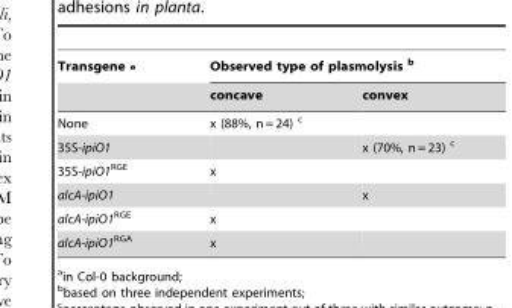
<table><thead><tr><td rowspan="2">Transgene a</td><td colspan="2">Observed type of plasmolysis b</td></tr><tr><td>concave</td><td>convex</td></tr></thead><tbody><tr><td>None</td><td>x (88%, n = 24) c</td><td></td></tr><tr><td>35S-ipiO1</td><td></td><td>x (70%, n = 23) c</td></tr><tr><td>35S-ipiO1<sup>RGE</sup></td><td>x</td><td></td></tr><tr><td>alcA-ipiO1</td><td></td><td>x</td></tr><tr><td>alcA-ipiO1<sup>RGE</sup></td><td>x</td><td></td></tr><tr><td>alcA-ipiO1<sup>RGA</sup></td><td>x</td><td></td></tr></tbody></table>